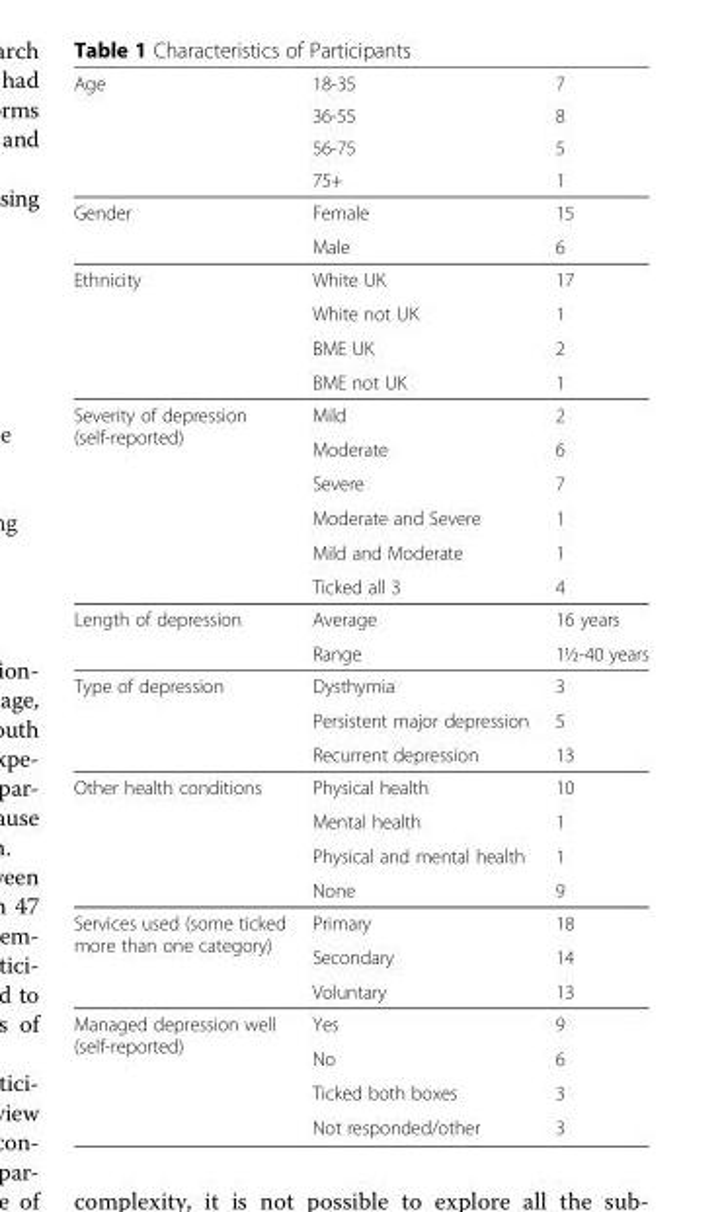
<table><thead><tr><td rowspan="4">Age</td><td rowspan="4">18-35 36-55 56-75 75+</td><td rowspan="4">7 8 5 1</td></tr><tr></tr><tr></tr><tr></tr></thead><tbody><tr><td rowspan="2">Gender</td><td>Female</td><td>15</td></tr><tr><td>Male</td><td>6</td></tr><tr><td rowspan="4">Ethnicity</td><td>White UK</td><td>17</td></tr><tr><td>White not UK</td><td>1</td></tr><tr><td>BME UK</td><td>2</td></tr><tr><td>BME not UK</td><td>1</td></tr><tr><td rowspan="6">Severity of depression (self-reported)</td><td>Mild</td><td>2</td></tr><tr><td>Moderate</td><td>6</td></tr><tr><td>Severe</td><td>7</td></tr><tr><td>Moderate and Severe</td><td>1</td></tr><tr><td>Mild and Moderate</td><td>1</td></tr><tr><td>Ticked all 3</td><td>4</td></tr><tr><td rowspan="2">Length of depression</td><td>Average</td><td>16 years</td></tr><tr><td>Range</td><td>1½-40 years</td></tr><tr><td rowspan="3">Type of depression</td><td>Dysthymia</td><td>3</td></tr><tr><td>Persistent major depression</td><td>5</td></tr><tr><td>Recurrent depression</td><td>13</td></tr><tr><td rowspan="4">Other health conditions</td><td>Physical health</td><td>10</td></tr><tr><td>Mental health</td><td>1</td></tr><tr><td>Physical and mental health</td><td>1</td></tr><tr><td>None</td><td>9</td></tr><tr><td rowspan="3">Services used (some ticked more than one category)</td><td>Primary</td><td>18</td></tr><tr><td>Secondary</td><td>14</td></tr><tr><td>Voluntary</td><td>13</td></tr><tr><td rowspan="4">Managed depression well (self-reported)</td><td>Yes</td><td>9</td></tr><tr><td>No</td><td>6</td></tr><tr><td>Ticked both boxes</td><td>3</td></tr><tr><td>Not responded/other</td><td>3</td></tr></tbody></table>